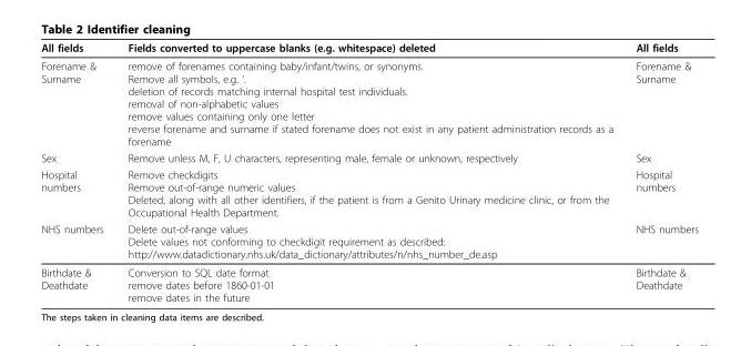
<table><thead><tr><td>All fields</td><td>Fields converted to uppercase blanks (e.g. whitespace) deleted</td><td>All fields</td></tr></thead><tbody><tr><td>Forename &amp; Surname</td><td>remove of forenames containing baby/infant/twins, or synonyms. Remove all symbols, e.g. ‘. deletion of records matching internal hospital test individuals. removal of non-alphabetic values remove values containing only one letter reverse forename and surname if stated forename does not exist in any patient administration records as a forename</td><td>Forename &amp; Surname</td></tr><tr><td>Sex</td><td>Remove unless M, F, U characters, representing male, female or unknown, respectively</td><td>Sex</td></tr><tr><td>Hospital numbers</td><td>Remove checkdigits Remove out-of-range numeric values Deleted, along with all other identifiers, if the patient is from a Genito Urinary medicine clinic, or from the Occupational Health Department.</td><td>Hospital numbers</td></tr><tr><td>NHS numbers</td><td>Delete out-of-range values Delete values not conforming to checkdigit requirement as described: http://www.datadictionary.nhs.uk/data_dictionary/attributes/n/nhs_number_de.asp</td><td>NHS numbers</td></tr><tr><td>Birthdate &amp; Deathdate</td><td>Conversion to SQL date format remove dates before 1860-01-01 remove dates in the future</td><td>Birthdate &amp; Deathdate</td></tr></tbody></table>